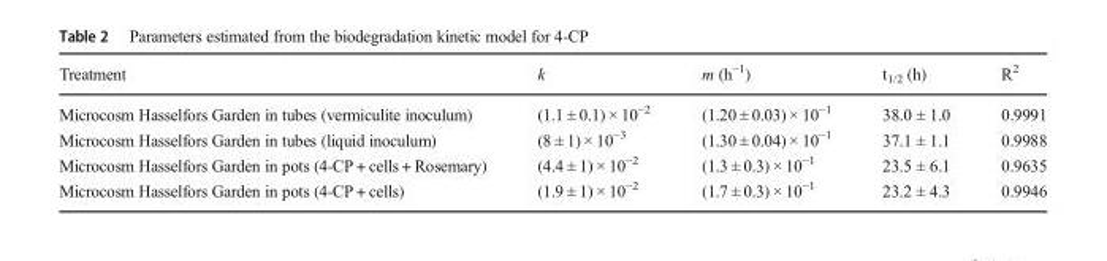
<table><thead><tr><td>Treatment</td><td>k</td><td>m (h<sup>−1</sup>)</td><td>t<sub>1/2</sub> (h)</td><td>R<sup>2</sup></td></tr></thead><tbody><tr><td>Microcosm Hasselfors Garden in tubes (vermiculite inoculum)</td><td>(1.1 ± 0.1) × 10<sup>−2</sup></td><td>(1.20 ± 0.03) × 10<sup>−1</sup></td><td>38.0 ± 1.0</td><td>0.9991</td></tr><tr><td>Microcosm Hasselfors Garden in tubes (liquid inoculum)</td><td>(8 ± 1) × 10<sup>−3</sup></td><td>(1.30 ± 0.04) × 10<sup>−1</sup></td><td>37.1 ± 1.1</td><td>0.9988</td></tr><tr><td>Microcosm Hasselfors Garden in pots (4-CP + cells + Rosemary)</td><td>(4.4 ± 1) × 10<sup>−2</sup></td><td>(1.3 ± 0.3) × 10<sup>−1</sup></td><td>23.5 ± 6.1</td><td>0.9635</td></tr><tr><td>Microcosm Hasselfors Garden in pots (4-CP + cells)</td><td>(1.9 ± 1) × 10<sup>−2</sup></td><td>(1.7 ± 0.3) × 10<sup>−1</sup></td><td>23.2 ± 4.3</td><td>0.9946</td></tr></tbody></table>